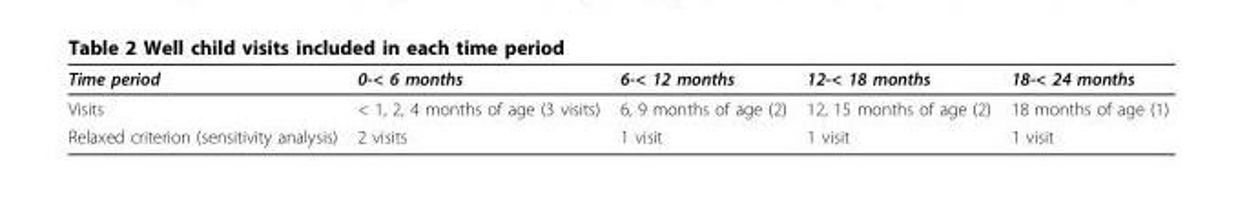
<table><thead><tr><td>Time period</td><td>0-&lt; 6 months</td><td>6-&lt; 12 months</td><td>12-&lt; 18 months</td><td>18-&lt; 24 months</td></tr></thead><tbody><tr><td>Visits</td><td>&lt; 1, 2, 4 months of age (3 visits)</td><td>6, 9 months of age (2)</td><td>12, 15 months of age (2)</td><td>18 months of age (1)</td></tr><tr><td>Relaxed criterion (sensitivity analysis)</td><td>2 visits</td><td>1 visit</td><td>1 visit</td><td>1 visit</td></tr></tbody></table>